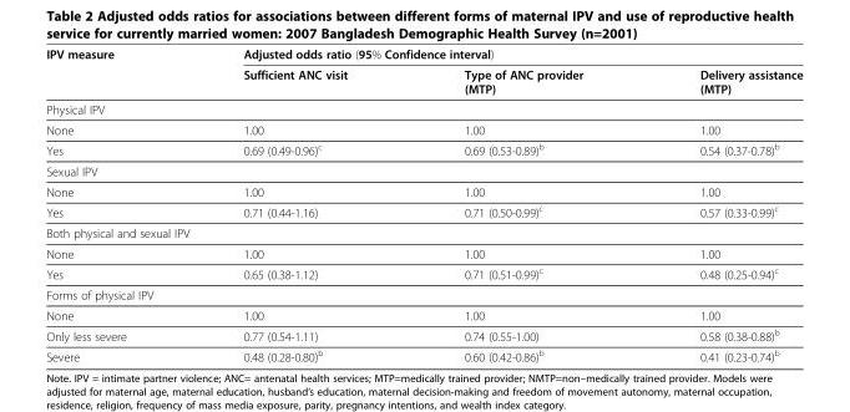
<table><thead><tr><td rowspan="2">IPV measure</td><td colspan="3">Adjusted odds ratio (95% Confidence interval)</td></tr><tr><td>Sufficient ANC visit</td><td>Type of ANC provider (MTP)</td><td>Delivery assistance (MTP)</td></tr></thead><tbody><tr><td colspan="4">Physical IPV</td></tr><tr><td>None</td><td>1.00</td><td>1.00</td><td>1.00</td></tr><tr><td>Yes</td><td>0.69 (0.49-0.96)<sup>c</sup></td><td>0.69 (0.53-0.89)<sup>b</sup></td><td>0.54 (0.37-0.78)<sup>b</sup></td></tr><tr><td colspan="4">Sexual IPV</td></tr><tr><td>None</td><td>1.00</td><td>1.00</td><td>1.00</td></tr><tr><td>Yes</td><td>0.71 (0.44-1.16)</td><td>0.71 (0.50-0.99)<sup>c</sup></td><td>0.57 (0.33-0.99)<sup>c</sup></td></tr><tr><td colspan="4">Both physical and sexual IPV</td></tr><tr><td>None</td><td>1.00</td><td>1.00</td><td>1.00</td></tr><tr><td>Yes</td><td>0.65 (0.38-1.12)</td><td>0.71 (0.51-0.99)<sup>c</sup></td><td>0.48 (0.25-0.94)<sup>c</sup></td></tr><tr><td colspan="4">Forms of physical IPV</td></tr><tr><td>None</td><td>1.00</td><td>1.00</td><td>1.00</td></tr><tr><td>Only less severe</td><td>0.77 (0.54-1.11)</td><td>0.74 (0.55-1.00)</td><td>0.58 (0.38-0.88)<sup>b</sup></td></tr><tr><td>Severe</td><td>0.48 (0.28-0.80)<sup>b</sup></td><td>0.60 (0.42-0.86)<sup>b</sup></td><td>0.41 (0.23-0.74)<sup>b</sup></td></tr></tbody></table>